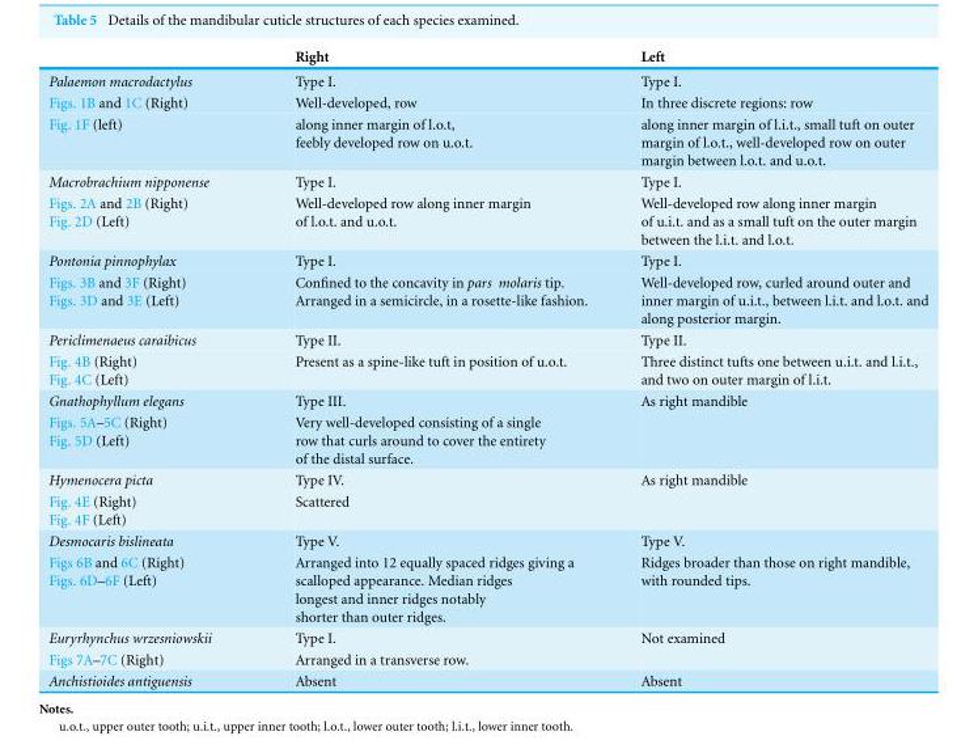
<table><thead><tr><td></td><td>Right</td><td>Left</td></tr></thead><tbody><tr><td>Palaemon macrodactylus</td><td>Type I.</td><td>Type I.</td></tr><tr><td>Figs. 1B and 1C (Right)</td><td>Well-developed, row</td><td>In three discrete regions: row</td></tr><tr><td>Fig. 1F (left)</td><td>along inner margin of l.o.t, feebly developed row on u.o.t.</td><td>along inner margin of l.i.t., small tuft on outer margin of l.o.t., well-developed row on outer margin between l.o.t. and u.o.t.</td></tr><tr><td>Macrobrachium nipponense</td><td>Type I.</td><td>Type I.</td></tr><tr><td>Figs. 2A and 2B (Right) Fig. 2D (Left)</td><td>Well-developed row along inner margin of l.o.t. and u.o.t.</td><td>Well-developed row along inner margin of u.i.t. and as a small tuft on the outer margin between the l.i.t. and l.o.t.</td></tr><tr><td>Pontonia pinnophylax</td><td>Type I.</td><td>Type I.</td></tr><tr><td>Figs. 3B and 3F (Right) Figs. 3D and 3E (Left)</td><td>Confined to the concavity in pars molaris tip. Arranged in a semicircle, in a rosette-like fashion.</td><td>Well-developed row, curled around outer and inner margin of u.i.t., between l.i.t. and l.o.t. and along posterior margin.</td></tr><tr><td>Periclimenaeus caraibicus</td><td>Type II.</td><td>Type II.</td></tr><tr><td>Fig. 4B (Right) Fig. 4C (Left)</td><td>Present as a spine-like tuft in position of u.o.t.</td><td>Three distinct tufts one between u.i.t. and l.i.t., and two on outer margin of l.i.t.</td></tr><tr><td>Gnathophyllum elegans</td><td>Type III.</td><td>As right mandible</td></tr><tr><td>Figs. 5A–5C (Right) Fig. 5D (Left)</td><td>Very well-developed consisting of a single row that curls around to cover the entirety of the distal surface.</td><td></td></tr><tr><td>Hymenocera picta</td><td>Type IV.</td><td>As right mandible</td></tr><tr><td>Fig. 4E (Right) Fig. 4F (Left)</td><td>Scattered</td><td></td></tr><tr><td>Desmocaris bislineata</td><td>Type V.</td><td>Type V.</td></tr><tr><td>Figs 6B and 6C (Right) Figs. 6D–6F (Left)</td><td>Arranged into 12 equally spaced ridges giving a scalloped appearance. Median ridges longest and inner ridges notably shorter than outer ridges.</td><td>Ridges broader than those on right mandible, with rounded tips.</td></tr><tr><td>Euryrhynchus wrzesniowskii</td><td>Type I.</td><td>Not examined</td></tr><tr><td>Figs 7A–7C (Right)</td><td>Arranged in a transverse row.</td><td></td></tr><tr><td>Anchistioides antiguensis</td><td>Absent</td><td>Absent</td></tr></tbody></table>